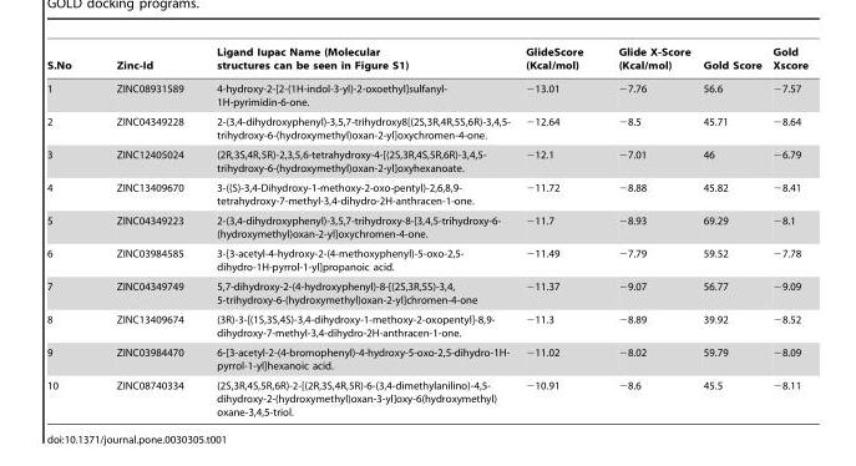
<table><thead><tr><td>S.No</td><td>Zinc-Id</td><td>Ligand Iupac Name (Molecular structures can be seen in Figure S1)</td><td>GlideScore (Kcal/mol)</td><td>Glide X-Score (Kcal/mol)</td><td>Gold Score</td><td>Gold Xscore</td></tr></thead><tbody><tr><td>1</td><td>ZINC08931589</td><td>4-hydroxy-2-[2-(1H-indol-3-yl)-2-oxoethyl]sulfanyl- 1H-pyrimidin-6-one.</td><td>−13.01</td><td>−7.76</td><td>56.6</td><td>−7.57</td></tr><tr><td>2</td><td>ZINC04349228</td><td>2-(3,4-dihydroxyphenyl)-3,5,7-trihydroxy8[(2S,3R,4R,5S,6R)-3,4,5- trihydroxy-6-(hydroxymethyl)oxan-2-yl]oxychromen-4-one.</td><td>−12.64</td><td>−8.5</td><td>45.71</td><td>−8.64</td></tr><tr><td>3</td><td>ZINC12405024</td><td>(2R,3S,4R,5R)-2,3,5,6-tetrahydroxy-4-[(2S,3R,4S,5R,6R)-3,4,5- trihydroxy-6-(hydroxymethyl)oxan-2-yl]oxyhexanoate.</td><td>−12.1</td><td>−7.01</td><td>46</td><td>−6.79</td></tr><tr><td>4</td><td>ZINC13409670</td><td>3-((S)-3,4-Dihydroxy-1-methoxy-2-oxo-pentyl)-2,6,8,9- tetrahydroxy-7-methyl-3,4-dihydro-2H-anthracen-1-one.</td><td>−11.72</td><td>−8.88</td><td>45.82</td><td>−8.41</td></tr><tr><td>5</td><td>ZINC04349223</td><td>2-(3,4-dihydroxyphenyl)-3,5,7-trihydroxy-8-[3,4,5-trihydroxy-6- (hydroxymethyl)oxan-2-yl]oxychromen-4-one.</td><td>−11.7</td><td>−8.93</td><td>69.29</td><td>−8.1</td></tr><tr><td>6</td><td>ZINC03984585</td><td>3-[3-acetyl-4-hydroxy-2-(4-methoxyphenyl)-5-oxo-2,5- dihydro-1H-pyrrol-1-yl]propanoic acid.</td><td>−11.49</td><td>−7.79</td><td>59.52</td><td>−7.78</td></tr><tr><td>7</td><td>ZINC04349749</td><td>5,7-dihydroxy-2-(4-hydroxyphenyl)-8-[(2S,3R,5S)-3,4, 5-trihydroxy-6-(hydroxymethyl)oxan-2-yl]chromen-4-one</td><td>−11.37</td><td>−9.07</td><td>56.77</td><td>−9.09</td></tr><tr><td>8</td><td>ZINC13409674</td><td>(3R)-3-[(1S,3S,4S)-3,4-dihydroxy-1-methoxy-2-oxopentyl]-8,9- dihydroxy-7-methyl-3,4-dihydro-2H-anthracen-1-one.</td><td>−11.3</td><td>−8.89</td><td>39.92</td><td>−8.52</td></tr><tr><td>9</td><td>ZINC03984470</td><td>6-[3-acetyl-2-(4-bromophenyl)-4-hydroxy-5-oxo-2,5-dihydro-1H- pyrrol-1-yl]hexanoic acid.</td><td>−11.02</td><td>−8.02</td><td>59.79</td><td>−8.09</td></tr><tr><td>10</td><td>ZINC08740334</td><td>(2S,3R,4S,5R,6R)-2-[(2R,3S,4R,5R)-6-(3,4-dimethylanilino)-4,5- dihydroxy-2-(hydroxymethyl)oxan-3-yl]oxy-6(hydroxymethyl) oxane-3,4,5-triol.</td><td>−10.91</td><td>−8.6</td><td>45.5</td><td>−8.11</td></tr></tbody></table>